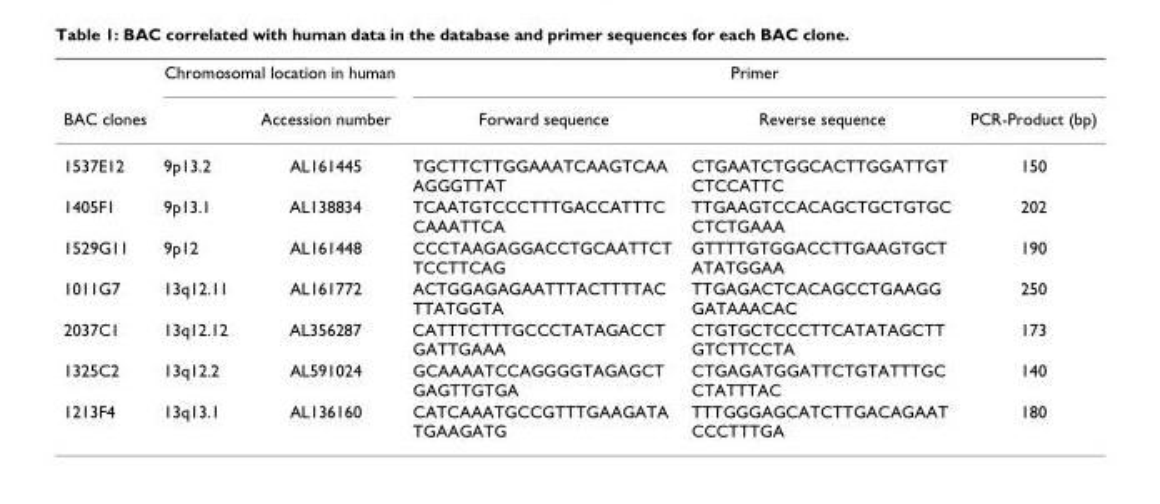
<table><thead><tr><td rowspan="2">BAC clones</td><td colspan="2">Chromosomal location in human</td><td colspan="3">Primer</td></tr><tr><td></td><td>Accession number</td><td>Forward sequence</td><td>Reverse sequence</td><td>PCR-Product (bp)</td></tr></thead><tbody><tr><td>1537E12</td><td>9p13.2</td><td>AL161445</td><td>TGCTTCTTGGAAATCAAGTCAA AGGGTTAT</td><td>CTGAATCTGGCACTTGGATTGT CTCCATTC</td><td>150</td></tr><tr><td>1405F1</td><td>9p13.1</td><td>AL138834</td><td>TCAATGTCCCTTTGACCATTTC CAAATTCA</td><td>TTGAAGTCCACAGCTGCTGTGC CTCTGAAA</td><td>202</td></tr><tr><td>1529G11</td><td>9p12</td><td>AL161448</td><td>CCCTAAGAGGACCTGCAATTCT TCCTTCAG</td><td>GTTTTGTGGACCTTGAAGTGCT ATATGGAA</td><td>190</td></tr><tr><td>1011G7</td><td>13q12.11</td><td>AL161772</td><td>ACTGGAGAGAATTTACTTTTAC TTATGGTA</td><td>TTGAGACTCACAGCCTGAAGG GATAAACAC</td><td>250</td></tr><tr><td>2037C1</td><td>13q12.12</td><td>AL356287</td><td>CATTTCTTTGCCCTATAGACCT GATTGAAA</td><td>CTGTGCTCCCTTCATATAGCTT GTCTTCCTA</td><td>173</td></tr><tr><td>1325C2</td><td>13q12.2</td><td>AL591024</td><td>GCAAAATCCAGGGGTAGAGCT GAGTTGTGA</td><td>CTGAGATGGATTCTGTATTTGC CTATTTAC</td><td>140</td></tr><tr><td>1213F4</td><td>13q13.1</td><td>AL136160</td><td>CATCAAATGCCGTTTGAAGATA TGAAGATG</td><td>TTTGGGAGCATCTTGACAGAAT CCCTTTGA</td><td>180</td></tr></tbody></table>